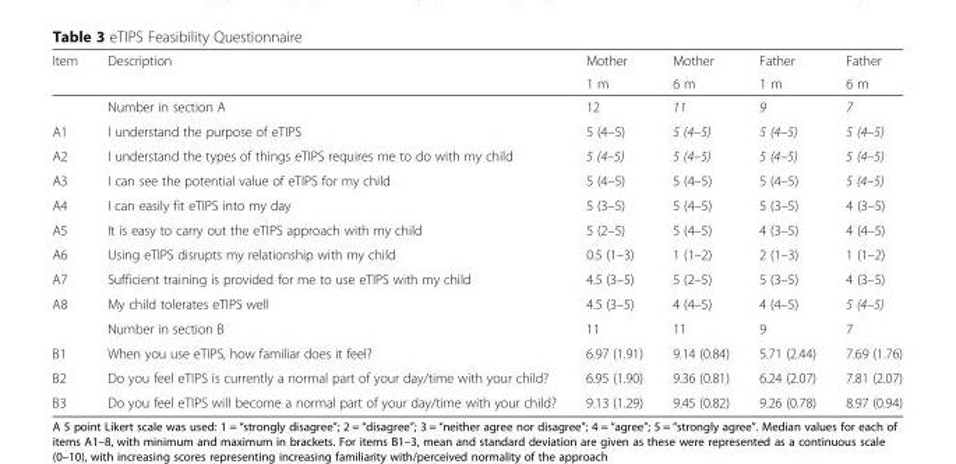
<table><thead><tr><td rowspan="2">Item</td><td rowspan="2">Description</td><td rowspan="2">Mother 1 m</td><td rowspan="2">Mother 6 m</td><td rowspan="2">Father 1 m</td><td rowspan="2">Father 6 m</td></tr><tr></tr></thead><tbody><tr><td></td><td>Number in section A</td><td>12</td><td>11</td><td>9</td><td>7</td></tr><tr><td>A1</td><td>I understand the purpose of eTIPS</td><td>5 (4–5)</td><td>5 (4–5)</td><td>5 (4–5)</td><td>5 (4–5)</td></tr><tr><td>A2</td><td>I understand the types of things eTIPS requires me to do with my child</td><td>5 (4–5)</td><td>5 (4–5)</td><td>5 (4–5)</td><td>5 (4–5)</td></tr><tr><td>A3</td><td>I can see the potential value of eTIPS for my child</td><td>5 (4–5)</td><td>5 (4–5)</td><td>5 (4–5)</td><td>5 (4–5)</td></tr><tr><td>A4</td><td>I can easily fit eTIPS into my day</td><td>5 (3–5)</td><td>5 (4–5)</td><td>5 (3–5)</td><td>4 (3–5)</td></tr><tr><td>A5</td><td>It is easy to carry out the eTIPS approach with my child</td><td>5 (2–5)</td><td>5 (4–5)</td><td>4 (3–5)</td><td>4 (4–5)</td></tr><tr><td>A6</td><td>Using eTIPS disrupts my relationship with my child</td><td>0.5 (1–3)</td><td>1 (1–2)</td><td>2 (1–3)</td><td>1 (1–2)</td></tr><tr><td>A7</td><td>Sufficient training is provided for me to use eTIPS with my child</td><td>4.5 (3–5)</td><td>5 (2–5)</td><td>5 (3–5)</td><td>4 (3–5)</td></tr><tr><td rowspan="2">A8</td><td>My child tolerates eTIPS well</td><td>4.5 (3–5)</td><td>4 (4–5)</td><td>4 (4–5)</td><td>5 (4–5)</td></tr><tr><td>Number in section B</td><td>11</td><td>11</td><td>9</td><td>7</td></tr><tr><td>B1</td><td>When you use eTIPS, how familiar does it feel?</td><td>6.97 (1.91)</td><td>9.14 (0.84)</td><td>5.71 (2.44)</td><td>7.69 (1.76)</td></tr><tr><td>B2</td><td>Do you feel eTIPS is currently a normal part of your day/time with your child?</td><td>6.95 (1.90)</td><td>9.36 (0.81)</td><td>6.24 (2.07)</td><td>7.81 (2.07)</td></tr><tr><td>B3</td><td>Do you feel eTIPS will become a normal part of your day/time with your child?</td><td>9.13 (1.29)</td><td>9.45 (0.82)</td><td>9.26 (0.78)</td><td>8.97 (0.94)</td></tr></tbody></table>